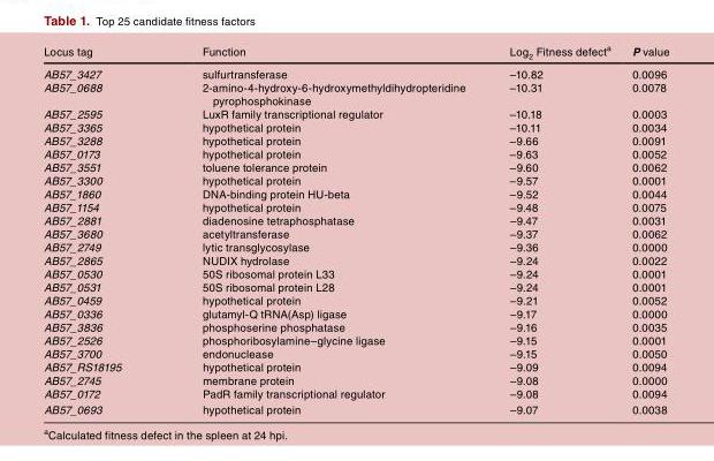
<table><thead><tr><td>Locus tag</td><td>Function</td><td>Log<sub>2</sub> Fitness defect<sup>a</sup></td><td>P value</td></tr></thead><tbody><tr><td>AB57_3427</td><td>sulfurtransferase</td><td>–10.82</td><td>0.0096</td></tr><tr><td>AB57_0688</td><td>2-amino-4-hydroxy-6-hydroxymethyldihydropteridine pyrophosphokinase</td><td>–10.31</td><td>0.0078</td></tr><tr><td>AB57_2595</td><td>LuxR family transcriptional regulator</td><td>–10.18</td><td>0.0003</td></tr><tr><td>AB57_3365</td><td>hypothetical protein</td><td>–10.11</td><td>0.0034</td></tr><tr><td>AB57_3288</td><td>hypothetical protein</td><td>–9.66</td><td>0.0091</td></tr><tr><td>AB57_0173</td><td>hypothetical protein</td><td>–9.63</td><td>0.0052</td></tr><tr><td>AB57_3551</td><td>toluene tolerance protein</td><td>–9.60</td><td>0.0062</td></tr><tr><td>AB57_3300</td><td>hypothetical protein</td><td>–9.57</td><td>0.0001</td></tr><tr><td>AB57_1860</td><td>DNA-binding protein HU-beta</td><td>–9.52</td><td>0.0044</td></tr><tr><td>AB57_1154</td><td>hypothetical protein</td><td>–9.48</td><td>0.0075</td></tr><tr><td>AB57_2881</td><td>diadenosine tetraphosphatase</td><td>–9.47</td><td>0.0031</td></tr><tr><td>AB57_3680</td><td>acetyltransferase</td><td>–9.37</td><td>0.0062</td></tr><tr><td>AB57_2749</td><td>lytic transglycosylase</td><td>–9.36</td><td>0.0000</td></tr><tr><td>AB57_2865</td><td>NUDIX hydrolase</td><td>–9.24</td><td>0.0022</td></tr><tr><td>AB57_0530</td><td>50S ribosomal protein L33</td><td>–9.24</td><td>0.0001</td></tr><tr><td>AB57_0531</td><td>50S ribosomal protein L28</td><td>–9.24</td><td>0.0001</td></tr><tr><td>AB57_0459</td><td>hypothetical protein</td><td>–9.21</td><td>0.0052</td></tr><tr><td>AB57_0336</td><td>glutamyl-Q tRNA(Asp) ligase</td><td>–9.17</td><td>0.0000</td></tr><tr><td>AB57_3836</td><td>phosphoserine phosphatase</td><td>–9.16</td><td>0.0035</td></tr><tr><td>AB57_2526</td><td>phosphoribosylamine–glycine ligase</td><td>–9.15</td><td>0.0001</td></tr><tr><td>AB57_3700</td><td>endonuclease</td><td>–9.15</td><td>0.0050</td></tr><tr><td>AB57_RS18195</td><td>hypothetical protein</td><td>–9.09</td><td>0.0094</td></tr><tr><td>AB57_2745</td><td>membrane protein</td><td>–9.08</td><td>0.0000</td></tr><tr><td>AB57_0172</td><td>PadR family transcriptional regulator</td><td>–9.08</td><td>0.0094</td></tr><tr><td>AB57_0693</td><td>hypothetical protein</td><td>–9.07</td><td>0.0038</td></tr></tbody></table>